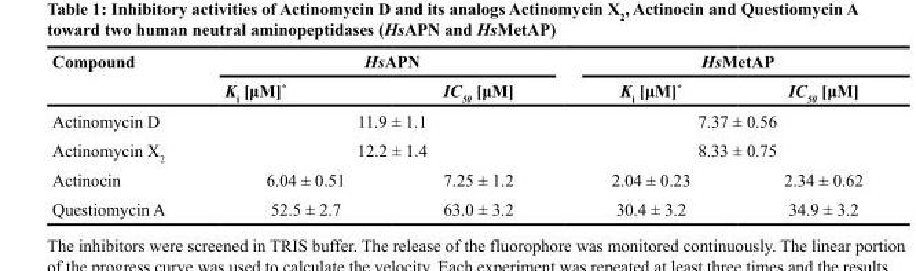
<table><thead><tr><td rowspan="2">Compound</td><td colspan="2">HsAPN</td><td colspan="2">HsMetAP</td></tr><tr><td>K<sub>i</sub> [μM]*</td><td>IC<sub>50</sub> [μM]</td><td>K<sub>i</sub> [μM]*</td><td>IC<sub>50</sub> [μM]</td></tr></thead><tbody><tr><td>Actinomycin D</td><td colspan="2">11.9 ± 1.1</td><td colspan="2">7.37 ± 0.56</td></tr><tr><td>Actinomycin X<sub>2</sub></td><td colspan="2">12.2 ± 1.4</td><td colspan="2">8.33 ± 0.75</td></tr><tr><td>Actinocin</td><td>6.04 ± 0.51</td><td>7.25 ± 1.2</td><td>2.04 ± 0.23</td><td>2.34 ± 0.62</td></tr><tr><td>Questiomycin A</td><td>52.5 ± 2.7</td><td>63.0 ± 3.2</td><td>30.4 ± 3.2</td><td>34.9 ± 3.2</td></tr></tbody></table>